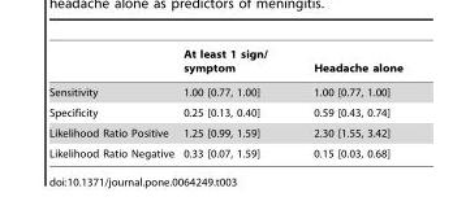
<table><thead><tr><td></td><td>At least 1 sign/ symptom</td><td>Headache alone</td></tr></thead><tbody><tr><td>Sensitivity</td><td>1.00 [0.77, 1.00]</td><td>1.00 [0.77, 1.00]</td></tr><tr><td>Specificity</td><td>0.25 [0.13, 0.40]</td><td>0.59 [0.43, 0.74]</td></tr><tr><td>Likelihood Ratio Positive</td><td>1.25 [0.99, 1.59]</td><td>2.30 [1.55, 3.42]</td></tr><tr><td>Likelihood Ratio Negative</td><td>0.33 [0.07, 1.59]</td><td>0.15 [0.03, 0.68]</td></tr></tbody></table>